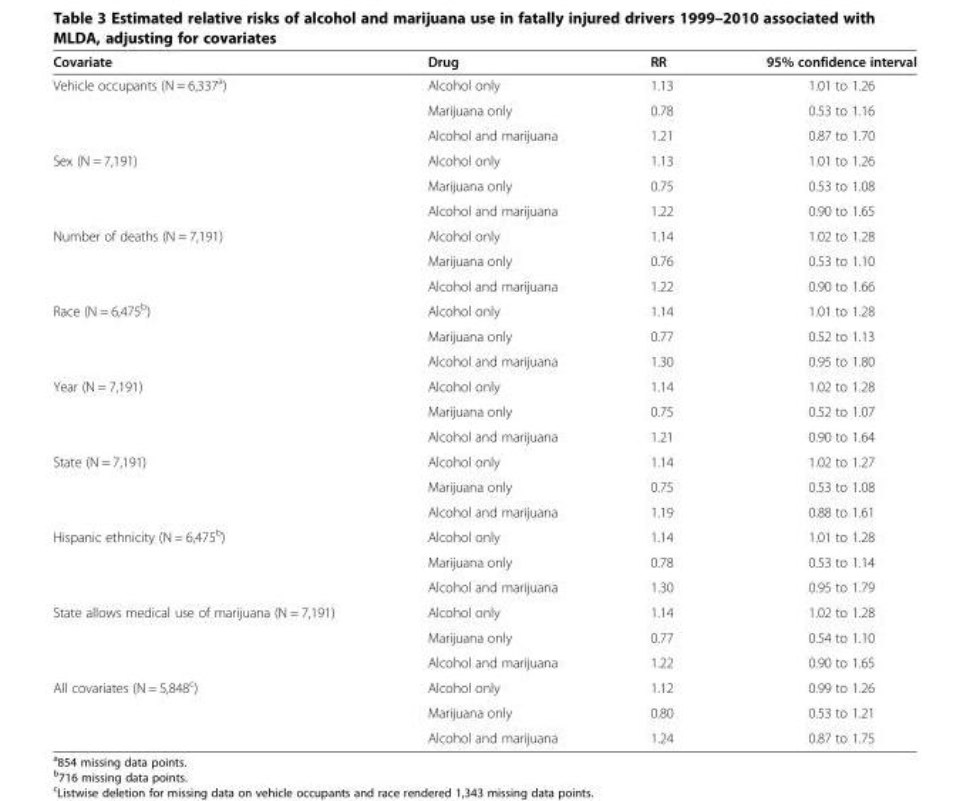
<table><thead><tr><td>Covariate</td><td>Drug</td><td>RR</td><td>95% confidence interval</td></tr></thead><tbody><tr><td rowspan="3">Vehicle occupants (N = 6,337<sup>a</sup>)</td><td>Alcohol only</td><td>1.13</td><td>1.01 to 1.26</td></tr><tr><td>Marijuana only</td><td>0.78</td><td>0.53 to 1.16</td></tr><tr><td>Alcohol and marijuana</td><td>1.21</td><td>0.87 to 1.70</td></tr><tr><td rowspan="3">Sex (N = 7,191)</td><td>Alcohol only</td><td>1.13</td><td>1.01 to 1.26</td></tr><tr><td>Marijuana only</td><td>0.75</td><td>0.53 to 1.08</td></tr><tr><td>Alcohol and marijuana</td><td>1.22</td><td>0.90 to 1.65</td></tr><tr><td rowspan="3">Number of deaths (N = 7,191)</td><td>Alcohol only</td><td>1.14</td><td>1.02 to 1.28</td></tr><tr><td>Marijuana only</td><td>0.76</td><td>0.53 to 1.10</td></tr><tr><td>Alcohol and marijuana</td><td>1.22</td><td>0.90 to 1.66</td></tr><tr><td rowspan="3">Race (N = 6,475<sup>b</sup>)</td><td>Alcohol only</td><td>1.14</td><td>1.01 to 1.28</td></tr><tr><td>Marijuana only</td><td>0.77</td><td>0.52 to 1.13</td></tr><tr><td>Alcohol and marijuana</td><td>1.30</td><td>0.95 to 1.80</td></tr><tr><td rowspan="3">Year (N = 7,191)</td><td>Alcohol only</td><td>1.14</td><td>1.02 to 1.28</td></tr><tr><td>Marijuana only</td><td>0.75</td><td>0.52 to 1.07</td></tr><tr><td>Alcohol and marijuana</td><td>1.21</td><td>0.90 to 1.64</td></tr><tr><td rowspan="3">State (N = 7,191)</td><td>Alcohol only</td><td>1.14</td><td>1.02 to 1.27</td></tr><tr><td>Marijuana only</td><td>0.75</td><td>0.53 to 1.08</td></tr><tr><td>Alcohol and marijuana</td><td>1.19</td><td>0.88 to 1.61</td></tr><tr><td rowspan="3">Hispanic ethnicity (N = 6,475<sup>b</sup>)</td><td>Alcohol only</td><td>1.14</td><td>1.01 to 1.28</td></tr><tr><td>Marijuana only</td><td>0.78</td><td>0.53 to 1.14</td></tr><tr><td>Alcohol and marijuana</td><td>1.30</td><td>0.95 to 1.79</td></tr><tr><td rowspan="3">State allows medical use of marijuana (N = 7,191)</td><td>Alcohol only</td><td>1.14</td><td>1.02 to 1.28</td></tr><tr><td>Marijuana only</td><td>0.77</td><td>0.54 to 1.10</td></tr><tr><td>Alcohol and marijuana</td><td>1.22</td><td>0.90 to 1.65</td></tr><tr><td rowspan="3">All covariates (N = 5,848<sup>c</sup>)</td><td>Alcohol only</td><td>1.12</td><td>0.99 to 1.26</td></tr><tr><td>Marijuana only</td><td>0.80</td><td>0.53 to 1.21</td></tr><tr><td>Alcohol and marijuana</td><td>1.24</td><td>0.87 to 1.75</td></tr></tbody></table>